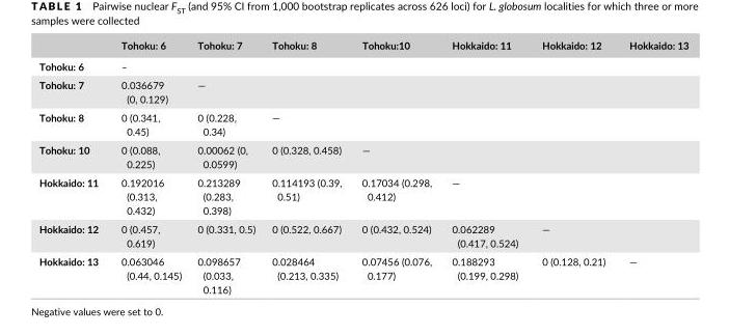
<table><thead><tr><td></td><td>Tohoku: 6</td><td>Tohoku: 7</td><td>Tohoku: 8</td><td>Tohoku:10</td><td>Hokkaido: 11</td><td>Hokkaido: 12</td><td>Hokkaido: 13</td></tr></thead><tbody><tr><td>Tohoku: 6</td><td>–</td><td></td><td></td><td></td><td></td><td></td><td></td></tr><tr><td>Tohoku: 7</td><td>0.036679 (0, 0.129)</td><td>—</td><td></td><td></td><td></td><td></td><td></td></tr><tr><td>Tohoku: 8</td><td>0 (0.341, 0.45)</td><td>0 (0.228, 0.34)</td><td>—</td><td></td><td></td><td></td><td></td></tr><tr><td>Tohoku: 10</td><td>0 (0.088, 0.225)</td><td>0.00062 (0, 0.0599)</td><td>0 (0.328, 0.458)</td><td>—</td><td></td><td></td><td></td></tr><tr><td>Hokkaido: 11</td><td>0.192016 (0.313, 0.432)</td><td>0.213289 (0.283, 0.398)</td><td>0.114193 (0.39, 0.51)</td><td>0.17034 (0.298, 0.412)</td><td>—</td><td></td><td></td></tr><tr><td>Hokkaido: 12</td><td>0 (0.457, 0.619)</td><td>0 (0.331, 0.5)</td><td>0 (0.522, 0.667)</td><td>0 (0.432, 0.524)</td><td>0.062289 (0.417, 0.524)</td><td>—</td><td></td></tr><tr><td>Hokkaido: 13</td><td>0.063046 (0.44, 0.145)</td><td>0.098657 (0.033, 0.116)</td><td>0.028464 (0.213, 0.335)</td><td>0.07456 (0.076, 0.177)</td><td>0.188293 (0.199, 0.298)</td><td>0 (0.128, 0.21)</td><td>—</td></tr></tbody></table>